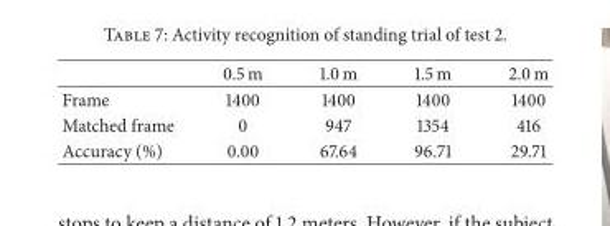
<table><thead><tr><td></td><td>0.5 m</td><td>1.0 m</td><td>1.5 m</td><td>2.0 m</td></tr></thead><tbody><tr><td>Frame</td><td>1400</td><td>1400</td><td>1400</td><td>1400</td></tr><tr><td>Matched frame</td><td>0</td><td>947</td><td>1354</td><td>416</td></tr><tr><td>Accuracy (%)</td><td>0.00</td><td>67.64</td><td>96.71</td><td>29.71</td></tr></tbody></table>